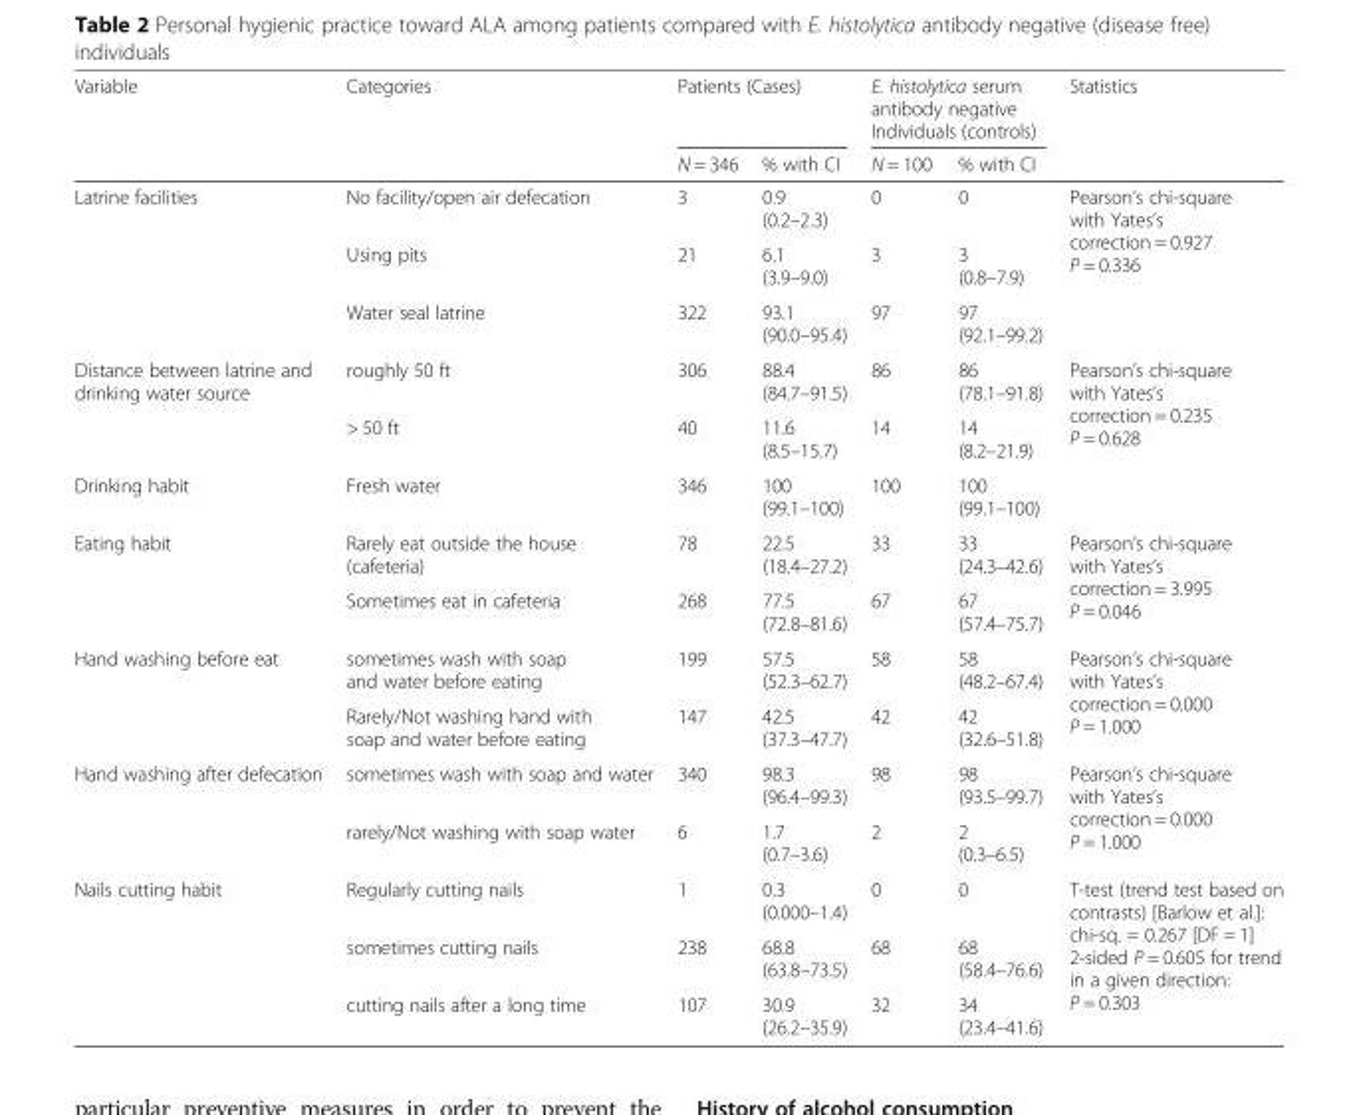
<table><thead><tr><td rowspan="2">Variable</td><td rowspan="2">Categories</td><td colspan="2">Patients (Cases)</td><td colspan="2">E. histolytica serum antibody negative Individuals (controls)</td><td rowspan="2">Statistics</td></tr><tr><td>N = 346</td><td>% with CI</td><td>N = 100</td><td>% with CI</td></tr></thead><tbody><tr><td rowspan="3">Latrine facilities</td><td>No facility/open air defecation</td><td>3</td><td>0.9 (0.2–2.3)</td><td>0</td><td>0</td><td rowspan="3">Pearson’s chi-square with Yates’s correction = 0.927 P = 0.336</td></tr><tr><td>Using pits</td><td>21</td><td>6.1 (3.9–9.0)</td><td>3</td><td>3 (0.8–7.9)</td></tr><tr><td>Water seal latrine</td><td>322</td><td>93.1 (90.0–95.4)</td><td>97</td><td>97 (92.1–99.2)</td></tr><tr><td rowspan="2">Distance between latrine and drinking water source</td><td>roughly 50 ft</td><td>306</td><td>88.4 (84.7–91.5)</td><td>86</td><td>86 (78.1–91.8)</td><td rowspan="2">Pearson’s chi-square with Yates’s correction = 0.235 P = 0.628</td></tr><tr><td>&gt; 50 ft</td><td>40</td><td>11.6 (8.5–15.7)</td><td>14</td><td>14 (8.2–21.9)</td></tr><tr><td>Drinking habit</td><td>Fresh water</td><td>346</td><td>100 (99.1–100)</td><td>100</td><td>100 (99.1–100)</td><td></td></tr><tr><td rowspan="2">Eating habit</td><td>Rarely eat outside the house (cafeteria)</td><td>78</td><td>22.5 (18.4–27.2)</td><td>33</td><td>33 (24.3–42.6)</td><td rowspan="2">Pearson’s chi-square with Yates’s correction = 3.995 P = 0.046</td></tr><tr><td>Sometimes eat in cafeteria</td><td>268</td><td>77.5 (72.8–81.6)</td><td>67</td><td>67 (57.4–75.7)</td></tr><tr><td rowspan="2">Hand washing before eat</td><td>sometimes wash with soap and water before eating</td><td>199</td><td>57.5 (52.3–62.7)</td><td>58</td><td>58 (48.2–67.4)</td><td rowspan="2">Pearson’s chi-square with Yates’s correction = 0.000 P = 1.000</td></tr><tr><td>Rarely/Not washing hand with soap and water before eating</td><td>147</td><td>42.5 (37.3–47.7)</td><td>42</td><td>42 (32.6–51.8)</td></tr><tr><td rowspan="2">Hand washing after defecation</td><td>sometimes wash with soap and water</td><td>340</td><td>98.3 (96.4–99.3)</td><td>98</td><td>98 (93.5–99.7)</td><td rowspan="2">Pearson’s chi-square with Yates’s correction = 0.000 P = 1.000</td></tr><tr><td>rarely/Not washing with soap water</td><td>6</td><td>1.7 (0.7–3.6)</td><td>2</td><td>2 (0.3–6.5)</td></tr><tr><td rowspan="3">Nails cutting habit</td><td>Regularly cutting nails</td><td>1</td><td>0.3 (0.000–1.4)</td><td>0</td><td>0</td><td rowspan="3">T-test (trend test based on contrasts) [Barlow et al.]: chi-sq. = 0.267 [DF = 1] 2-sided P = 0.605 for trend in a given direction: P = 0.303</td></tr><tr><td>sometimes cutting nails</td><td>238</td><td>68.8 (63.8–73.5)</td><td>68</td><td>68 (58.4–76.6)</td></tr><tr><td>cutting nails after a long time</td><td>107</td><td>30.9 (26.2–35.9)</td><td>32</td><td>34 (23.4–41.6)</td></tr></tbody></table>